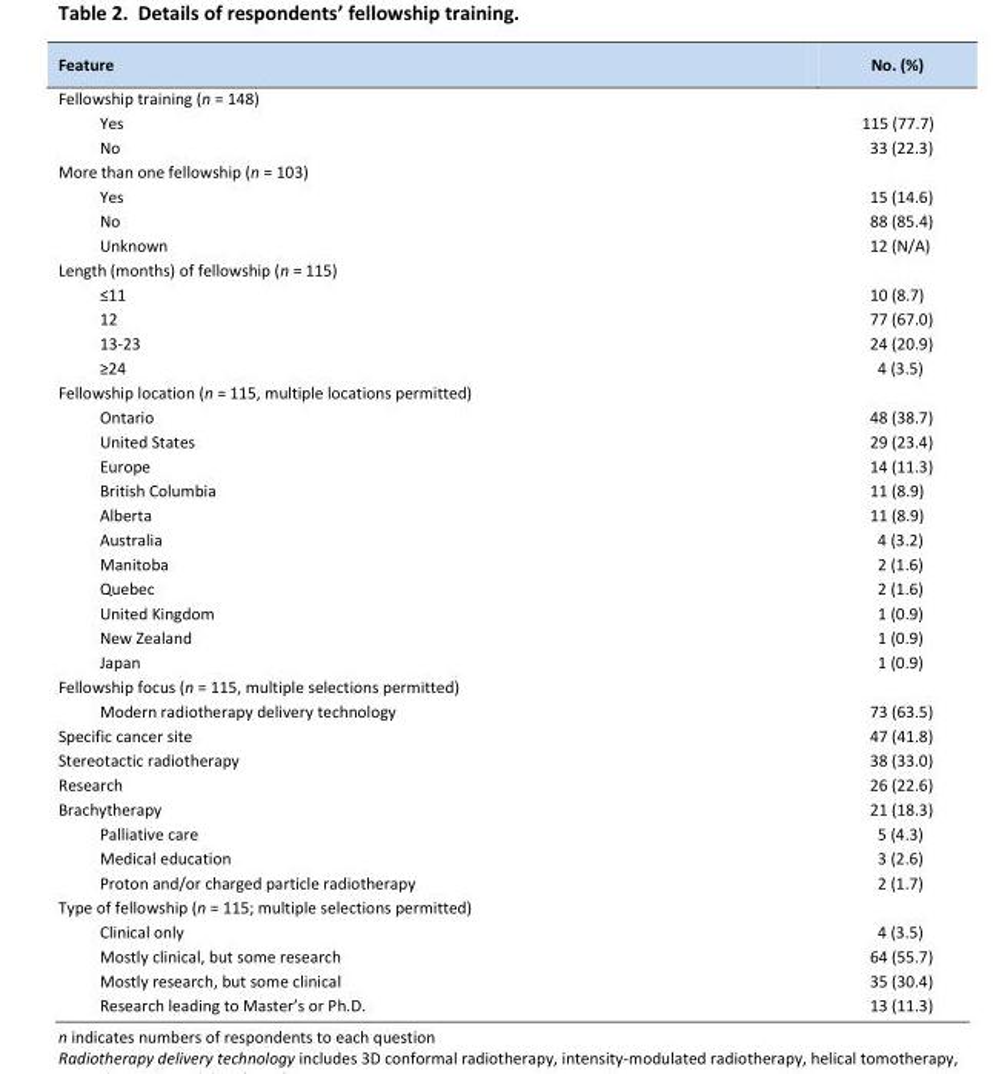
<table><thead><tr><td>Feature</td><td>No. (%)</td></tr></thead><tbody><tr><td colspan="2">Fellowship training (n = 148)</td></tr><tr><td>Yes</td><td>115 (77.7)</td></tr><tr><td>No</td><td>33 (22.3)</td></tr><tr><td colspan="2">More than one fellowship (n = 103)</td></tr><tr><td>Yes</td><td>15 (14.6)</td></tr><tr><td>No</td><td>88 (85.4)</td></tr><tr><td>Unknown</td><td>12 (N/A)</td></tr><tr><td colspan="2">Length (months) of fellowship (n = 115)</td></tr><tr><td>≤11</td><td>10 (8.7)</td></tr><tr><td>12</td><td>77 (67.0)</td></tr><tr><td>13-23</td><td>24 (20.9)</td></tr><tr><td>≥24</td><td>4 (3.5)</td></tr><tr><td colspan="2">Fellowship location (n = 115, multiple locations permitted)</td></tr><tr><td>Ontario</td><td>48 (38.7)</td></tr><tr><td>United States</td><td>29 (23.4)</td></tr><tr><td>Europe</td><td>14 (11.3)</td></tr><tr><td>British Columbia</td><td>11 (8.9)</td></tr><tr><td>Alberta</td><td>11 (8.9)</td></tr><tr><td>Australia</td><td>4 (3.2)</td></tr><tr><td>Manitoba</td><td>2 (1.6)</td></tr><tr><td>Quebec</td><td>2 (1.6)</td></tr><tr><td>United Kingdom</td><td>1 (0.9)</td></tr><tr><td>New Zealand</td><td>1 (0.9)</td></tr><tr><td>Japan</td><td>1 (0.9)</td></tr><tr><td colspan="2">Fellowship focus (n = 115, multiple selections permitted)</td></tr><tr><td>Modern radiotherapy delivery technology</td><td>73 (63.5)</td></tr><tr><td>Specific cancer site</td><td>47 (41.8)</td></tr><tr><td>Stereotactic radiotherapy</td><td>38 (33.0)</td></tr><tr><td>Research</td><td>26 (22.6)</td></tr><tr><td>Brachytherapy</td><td>21 (18.3)</td></tr><tr><td>Palliative care</td><td>5 (4.3)</td></tr><tr><td>Medical education</td><td>3 (2.6)</td></tr><tr><td>Proton and/or charged particle radiotherapy</td><td>2 (1.7)</td></tr><tr><td colspan="2">Type of fellowship (n = 115; multiple selections permitted)</td></tr><tr><td>Clinical only</td><td>4 (3.5)</td></tr><tr><td>Mostly clinical, but some research</td><td>64 (55.7)</td></tr><tr><td>Mostly research, but some clinical</td><td>35 (30.4)</td></tr><tr><td>Research leading to Master’s or Ph.D.</td><td>13 (11.3)</td></tr></tbody></table>